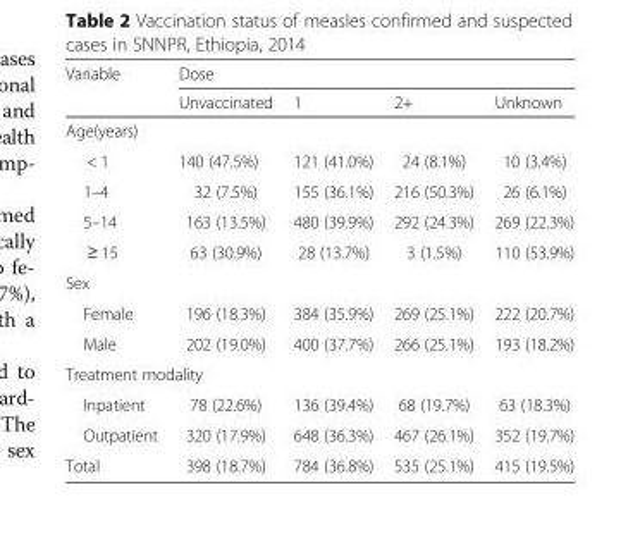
<table><thead><tr><td rowspan="2">Variable</td><td colspan="4">Dose</td></tr><tr><td>Unvaccinated</td><td>1</td><td>2+</td><td>Unknown</td></tr></thead><tbody><tr><td colspan="5">Age(years)</td></tr><tr><td>&lt; 1</td><td>140 (47.5%)</td><td>121 (41.0%)</td><td>24 (8.1%)</td><td>10 (3.4%)</td></tr><tr><td>1–4</td><td>32 (7.5%)</td><td>155 (36.1%)</td><td>216 (50.3%)</td><td>26 (6.1%)</td></tr><tr><td>5–14</td><td>163 (13.5%)</td><td>480 (39.9%)</td><td>292 (24.3%)</td><td>269 (22.3%)</td></tr><tr><td>≥ 15</td><td>63 (30.9%)</td><td>28 (13.7%)</td><td>3 (1.5%)</td><td>110 (53.9%)</td></tr><tr><td colspan="5">Sex</td></tr><tr><td>Female</td><td>196 (18.3%)</td><td>384 (35.9%)</td><td>269 (25.1%)</td><td>222 (20.7%)</td></tr><tr><td>Male</td><td>202 (19.0%)</td><td>400 (37.7%)</td><td>266 (25.1%)</td><td>193 (18.2%)</td></tr><tr><td colspan="5">Treatment modality</td></tr><tr><td>Inpatient</td><td>78 (22.6%)</td><td>136 (39.4%)</td><td>68 (19.7%)</td><td>63 (18.3%)</td></tr><tr><td>Outpatient</td><td>320 (17.9%)</td><td>648 (36.3%)</td><td>467 (26.1%)</td><td>352 (19.7%)</td></tr><tr><td>Total</td><td>398 (18.7%)</td><td>784 (36.8%)</td><td>535 (25.1%)</td><td>415 (19.5%)</td></tr></tbody></table>